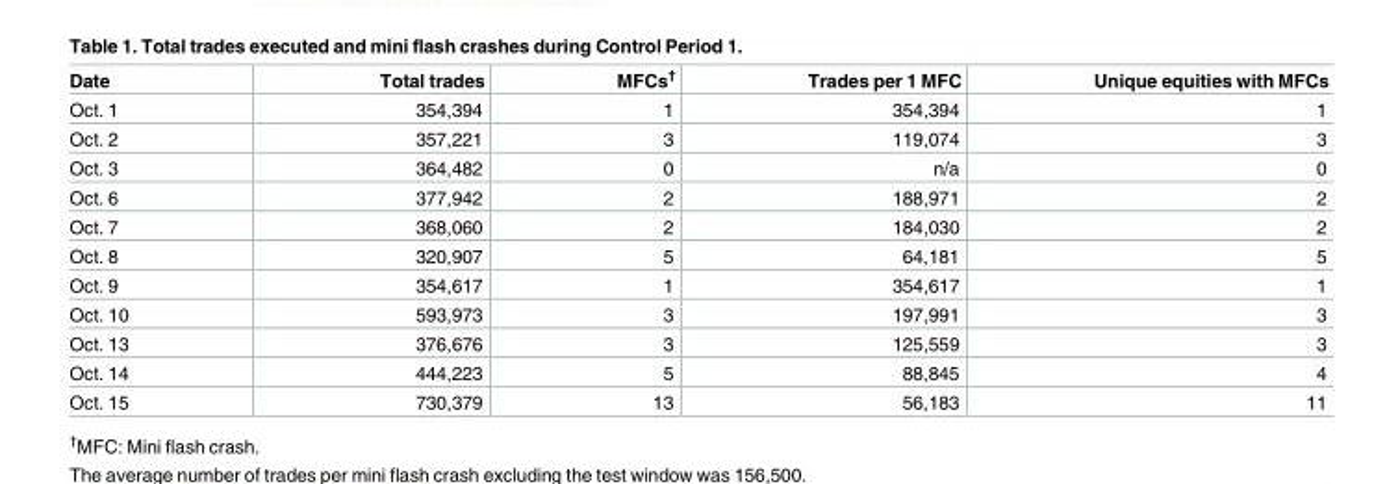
<table><thead><tr><td>Date</td><td>Total trades</td><td>MFCs<sup>†</sup></td><td>Trades per 1 MFC</td><td>Unique equities with MFCs</td></tr></thead><tbody><tr><td>Oct. 1</td><td>354,394</td><td>1</td><td>354,394</td><td>1</td></tr><tr><td>Oct. 2</td><td>357,221</td><td>3</td><td>119,074</td><td>3</td></tr><tr><td>Oct. 3</td><td>364,482</td><td>0</td><td>n/a</td><td>0</td></tr><tr><td>Oct. 6</td><td>377,942</td><td>2</td><td>188,971</td><td>2</td></tr><tr><td>Oct. 7</td><td>368,060</td><td>2</td><td>184,030</td><td>2</td></tr><tr><td>Oct. 8</td><td>320,907</td><td>5</td><td>64,181</td><td>5</td></tr><tr><td>Oct. 9</td><td>354,617</td><td>1</td><td>354,617</td><td>1</td></tr><tr><td>Oct. 10</td><td>593,973</td><td>3</td><td>197,991</td><td>3</td></tr><tr><td>Oct. 13</td><td>376,676</td><td>3</td><td>125,559</td><td>3</td></tr><tr><td>Oct. 14</td><td>444,223</td><td>5</td><td>88,845</td><td>4</td></tr><tr><td>Oct. 15</td><td>730,379</td><td>13</td><td>56,183</td><td>11</td></tr></tbody></table>